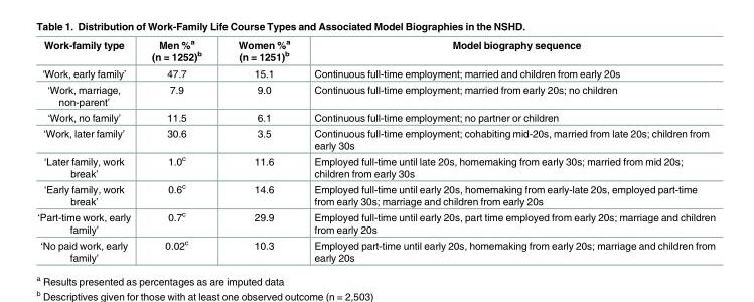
<table><thead><tr><td>Work-family type</td><td>Men %<sup>a</sup> (n = 1252)<sup>b</sup></td><td>Women %<sup>a</sup> (n = 1251)<sup>b</sup></td><td>Model biography sequence</td></tr></thead><tbody><tr><td>‘Work, early family’</td><td>47.7</td><td>15.1</td><td>Continuous full-time employment; married and children from early 20s</td></tr><tr><td>‘Work, marriage, non-parent’</td><td>7.9</td><td>9.0</td><td>Continuous full-time employment; married from early 20s; no children</td></tr><tr><td>‘Work, no family’</td><td>11.5</td><td>6.1</td><td>Continuous full-time employment; no partner or children</td></tr><tr><td>‘Work, later family’</td><td>30.6</td><td>3.5</td><td>Continuous full-time employment; cohabiting mid-20s, married from late 20s; children from early 30s</td></tr><tr><td>‘Later family, work break’</td><td>1.0<sup>c</sup></td><td>11.6</td><td>Employed full-time until late 20s, homemaking from early 30s; married from mid 20s; children from early 30s</td></tr><tr><td>‘Early family, work break’</td><td>0.6<sup>c</sup></td><td>14.6</td><td>Employed full-time until early 20s, homemaking from early-late 20s, employed part-time from early 30s; marriage and children from early 20s</td></tr><tr><td>‘Part-time work, early family’</td><td>0.7<sup>c</sup></td><td>29.9</td><td>Employed full-time until early 20s, part time employed from early 20s; marriage and children from early 20s</td></tr><tr><td>‘No paid work, early family’</td><td>0.02<sup>c</sup></td><td>10.3</td><td>Employed part-time until early 20s, homemaking from early 20s; marriage and children from early 20s</td></tr></tbody></table>